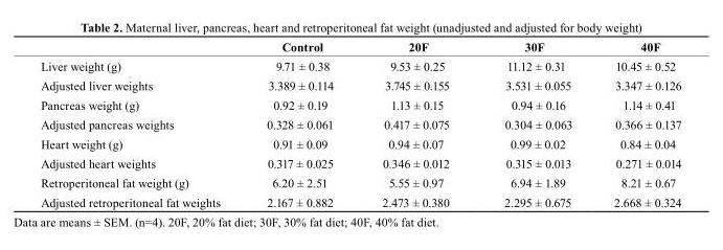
<table><thead><tr><td></td><td>control</td><td>20F</td><td>30F</td><td>40F</td></tr></thead><tbody><tr><td>Liver weight (g)</td><td>9.71 ± 0.38</td><td>9.53 ± 0.25</td><td>11.12 ± 0.31</td><td>10.45 ± 0.52</td></tr><tr><td>Adjusted liver weights</td><td>3.389 ± 0.114</td><td>3.745 ± 0.155</td><td>3.531 ± 0.055</td><td>3.347 ± 0.126</td></tr><tr><td>Pancreas weight (g)</td><td>0.92 ± 0.19</td><td>1.13 ± 0.15</td><td>0.94 ± 0.16</td><td>1.14 ± 0.41</td></tr><tr><td>Adjusted pancreas weights</td><td>0.328 ± 0.061</td><td>0.417 ± 0.075</td><td>0.304 ± 0.063</td><td>0.366 ± 0.137</td></tr><tr><td>Heart weight (g)</td><td>0.91 ± 0.09</td><td>0.94 ± 0.07</td><td>0.99 ± 0.02</td><td>0.84 ± 0.04</td></tr><tr><td>Adjusted heart weights</td><td>0.317 ± 0.025</td><td>0.346 ± 0.012</td><td>0.315 ± 0.013</td><td>0.271 ± 0.014</td></tr><tr><td>Retroperitoneal fat weight (g)</td><td>6.20 ± 2.51</td><td>5.55 ± 0.97</td><td>6.94 ± 1.89</td><td>8.21 ± 0.67</td></tr><tr><td>Adjusted retroperitoneal fat weights</td><td>2.167 ± 0.882</td><td>2.473 ± 0.380</td><td>2.295 ± 0.675</td><td>2.668 ± 0.324</td></tr></tbody></table>